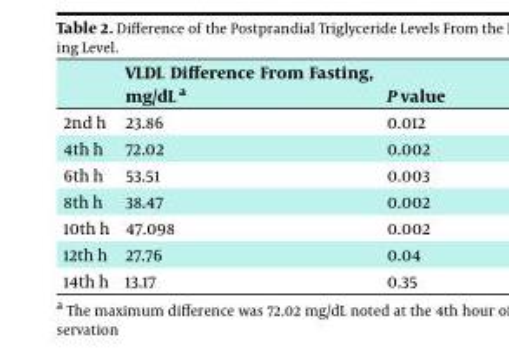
<table><thead><tr><td></td><td>VLDL Difference From Fasting, mg/dL a</td><td>P value</td></tr></thead><tbody><tr><td>2nd h</td><td>23.86</td><td>0.012</td></tr><tr><td>4th h</td><td>72.02</td><td>0.002</td></tr><tr><td>6th h</td><td>53.51</td><td>0.003</td></tr><tr><td>8th h</td><td>38.47</td><td>0.002</td></tr><tr><td>10th h</td><td>47.098</td><td>0.002</td></tr><tr><td>12th h</td><td>27.76</td><td>0.04</td></tr><tr><td>14th h</td><td>13.17</td><td>0.35</td></tr></tbody></table>